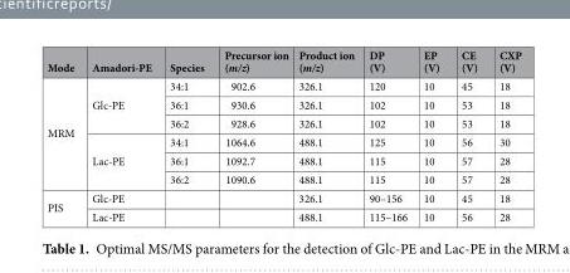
<table><thead><tr><td>Mode</td><td>Amadori-PE</td><td>Species</td><td>Precursor ion (m/z)</td><td>Product ion (m/z)</td><td>DP (V)</td><td>EP (V)</td><td>CE (V)</td><td>CXP (V)</td></tr></thead><tbody><tr><td rowspan="6">MRM</td><td rowspan="3">Glc-PE</td><td>34:1</td><td>902.6</td><td>326.1</td><td>120</td><td>10</td><td>45</td><td>18</td></tr><tr><td>36:1</td><td>930.6</td><td>326.1</td><td>102</td><td>10</td><td>53</td><td>18</td></tr><tr><td>36:2</td><td>928.6</td><td>326.1</td><td>102</td><td>10</td><td>53</td><td>18</td></tr><tr><td rowspan="3">Lac-PE</td><td>34:1</td><td>1064.6</td><td>488.1</td><td>125</td><td>10</td><td>56</td><td>30</td></tr><tr><td>36:1</td><td>1092.7</td><td>488.1</td><td>115</td><td>10</td><td>57</td><td>28</td></tr><tr><td>36:2</td><td>1090.6</td><td>488.1</td><td>115</td><td>10</td><td>57</td><td>28</td></tr><tr><td rowspan="2">PIS</td><td>Glc-PE</td><td></td><td></td><td>326.1</td><td>90–156</td><td>10</td><td>45</td><td>18</td></tr><tr><td>Lac-PE</td><td></td><td></td><td>488.1</td><td>115–166</td><td>10</td><td>56</td><td>28</td></tr></tbody></table>